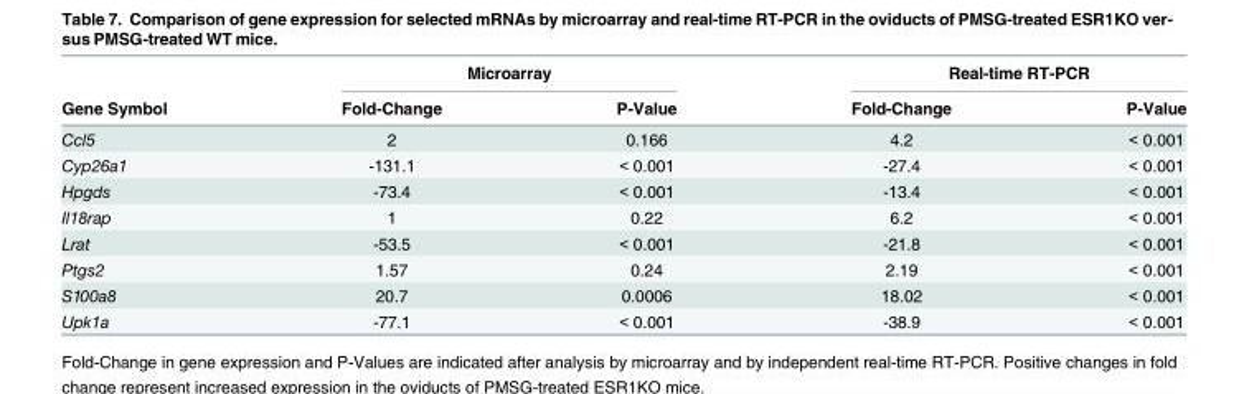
<table><thead><tr><td rowspan="2">Gene Symbol</td><td colspan="2">Microarray</td><td colspan="2">Real-time RT-PCR</td></tr><tr><td>Fold-Change</td><td>P-Value</td><td>Fold-Change</td><td>P-Value</td></tr></thead><tbody><tr><td>Ccl5</td><td>2</td><td>0.166</td><td>4.2</td><td>&lt; 0.001</td></tr><tr><td>Cyp26a1</td><td>-131.1</td><td>&lt; 0.001</td><td>-27.4</td><td>&lt; 0.001</td></tr><tr><td>Hpgds</td><td>-73.4</td><td>&lt; 0.001</td><td>-13.4</td><td>&lt; 0.001</td></tr><tr><td>Il18rap</td><td>1</td><td>0.22</td><td>6.2</td><td>&lt; 0.001</td></tr><tr><td>Lrat</td><td>-53.5</td><td>&lt; 0.001</td><td>-21.8</td><td>&lt; 0.001</td></tr><tr><td>Ptgs2</td><td>1.57</td><td>0.24</td><td>2.19</td><td>&lt; 0.001</td></tr><tr><td>S100a8</td><td>20.7</td><td>0.0006</td><td>18.02</td><td>&lt; 0.001</td></tr><tr><td>Upk1a</td><td>-77.1</td><td>&lt; 0.001</td><td>-38.9</td><td>&lt; 0.001</td></tr></tbody></table>